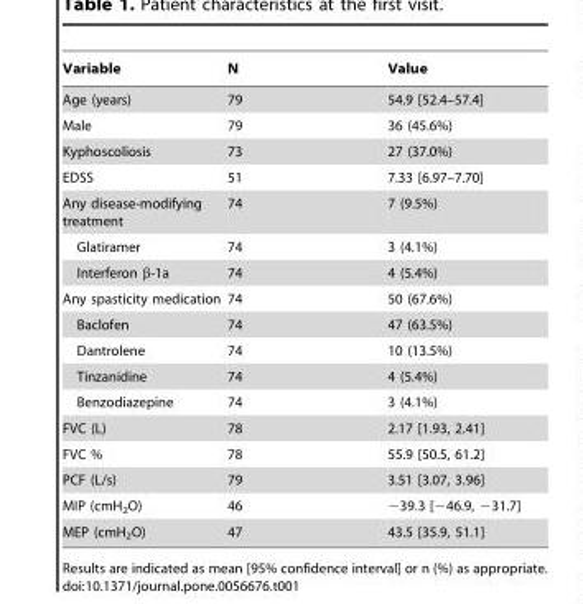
<table><thead><tr><td>Variable</td><td>N</td><td>Value</td></tr></thead><tbody><tr><td>Age (years)</td><td>79</td><td>54.9 [52.4–57.4]</td></tr><tr><td>Male</td><td>79</td><td>36 (45.6%)</td></tr><tr><td>Kyphoscoliosis</td><td>73</td><td>27 (37.0%)</td></tr><tr><td>EDSS</td><td>51</td><td>7.33 [6.97–7.70]</td></tr><tr><td>Any disease-modifying treatment</td><td>74</td><td>7 (9.5%)</td></tr><tr><td>Glatiramer</td><td>74</td><td>3 (4.1%)</td></tr><tr><td>Interferon β-1a</td><td>74</td><td>4 (5.4%)</td></tr><tr><td>Any spasticity medication</td><td>74</td><td>50 (67.6%)</td></tr><tr><td>Baclofen</td><td>74</td><td>47 (63.5%)</td></tr><tr><td>Dantrolene</td><td>74</td><td>10 (13.5%)</td></tr><tr><td>Tinzanidine</td><td>74</td><td>4 (5.4%)</td></tr><tr><td>Benzodiazepine</td><td>74</td><td>3 (4.1%)</td></tr><tr><td>FVC (L)</td><td>78</td><td>2.17 [1.93, 2.41]</td></tr><tr><td>FVC %</td><td>78</td><td>55.9 [50.5, 61.2]</td></tr><tr><td>PCF (L/s)</td><td>79</td><td>3.51 [3.07, 3.96]</td></tr><tr><td>MIP (cmH<sub>2</sub>O)</td><td>46</td><td>−39.3 [−46.9, −31.7]</td></tr><tr><td>MEP (cmH<sub>2</sub>O)</td><td>47</td><td>43.5 [35.9, 51.1]</td></tr></tbody></table>